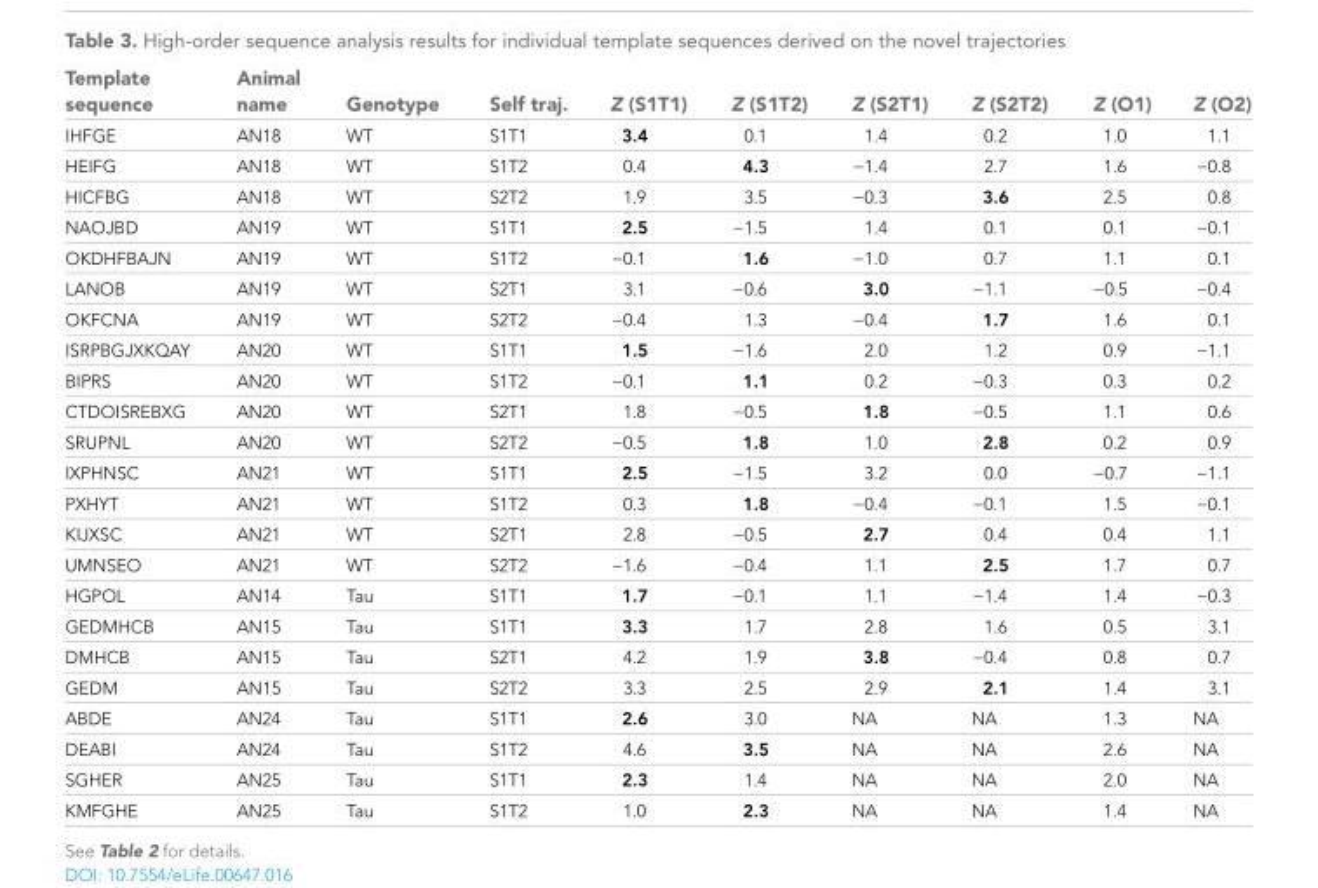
<table><thead><tr><td>Template sequence</td><td>Animal name</td><td>Genotype</td><td>Self traj.</td><td>Z (S1T1)</td><td>Z (S1T2)</td><td>Z (S2T1)</td><td>Z (S2T2)</td><td>Z (O1)</td><td>Z (O2)</td></tr></thead><tbody><tr><td>IHFGE</td><td>AN18</td><td>WT</td><td>S1T1</td><td>3.4</td><td>0.1</td><td>1.4</td><td>0.2</td><td>1.0</td><td>1.1</td></tr><tr><td>HEIFG</td><td>AN18</td><td>WT</td><td>S1T2</td><td>0.4</td><td>4.3</td><td>−1.4</td><td>2.7</td><td>1.6</td><td>−0.8</td></tr><tr><td>HICFBG</td><td>AN18</td><td>WT</td><td>S2T2</td><td>1.9</td><td>3.5</td><td>−0.3</td><td>3.6</td><td>2.5</td><td>0.8</td></tr><tr><td>NAOJBD</td><td>AN19</td><td>WT</td><td>S1T1</td><td>2.5</td><td>−1.5</td><td>1.4</td><td>0.1</td><td>0.1</td><td>−0.1</td></tr><tr><td>OKDHFBAJN</td><td>AN19</td><td>WT</td><td>S1T2</td><td>−0.1</td><td>1.6</td><td>−1.0</td><td>0.7</td><td>1.1</td><td>0.1</td></tr><tr><td>LANOB</td><td>AN19</td><td>WT</td><td>S2T1</td><td>3.1</td><td>−0.6</td><td>3.0</td><td>−1.1</td><td>−0.5</td><td>−0.4</td></tr><tr><td>OKFCNA</td><td>AN19</td><td>WT</td><td>S2T2</td><td>−0.4</td><td>1.3</td><td>−0.4</td><td>1.7</td><td>1.6</td><td>0.1</td></tr><tr><td>ISRPBGJXKQAY</td><td>AN20</td><td>WT</td><td>S1T1</td><td>1.5</td><td>−1.6</td><td>2.0</td><td>1.2</td><td>0.9</td><td>−1.1</td></tr><tr><td>BIPRS</td><td>AN20</td><td>WT</td><td>S1T2</td><td>−0.1</td><td>1.1</td><td>0.2</td><td>−0.3</td><td>0.3</td><td>0.2</td></tr><tr><td>CTDOISREBXG</td><td>AN20</td><td>WT</td><td>S2T1</td><td>1.8</td><td>−0.5</td><td>1.8</td><td>−0.5</td><td>1.1</td><td>0.6</td></tr><tr><td>SRUPNL</td><td>AN20</td><td>WT</td><td>S2T2</td><td>−0.5</td><td>1.8</td><td>1.0</td><td>2.8</td><td>0.2</td><td>0.9</td></tr><tr><td>IXPHNSC</td><td>AN21</td><td>WT</td><td>S1T1</td><td>2.5</td><td>−1.5</td><td>3.2</td><td>0.0</td><td>−0.7</td><td>−1.1</td></tr><tr><td>PXHYT</td><td>AN21</td><td>WT</td><td>S1T2</td><td>0.3</td><td>1.8</td><td>−0.4</td><td>−0.1</td><td>1.5</td><td>−0.1</td></tr><tr><td>KIJXSC</td><td>AN21</td><td>WT</td><td>S2T1</td><td>2.8</td><td>−0.5</td><td>2.7</td><td>0.4</td><td>0.4</td><td>1.1</td></tr><tr><td>UMNSEO</td><td>AN21</td><td>WT</td><td>S2T2</td><td>−1.6</td><td>−0.4</td><td>1.1</td><td>2.5</td><td>1.7</td><td>0.7</td></tr><tr><td>HGPOL</td><td>AN14</td><td>Tau</td><td>S1T1</td><td>1.7</td><td>−0.1</td><td>1.1</td><td>−1.4</td><td>1.4</td><td>−0.3</td></tr><tr><td>GEDMHCB</td><td>AN15</td><td>Tau</td><td>S1T1</td><td>3.3</td><td>1.7</td><td>2.8</td><td>1.6</td><td>0.5</td><td>3.1</td></tr><tr><td>DMHCB</td><td>AN15</td><td>Tau</td><td>S2T1</td><td>4.2</td><td>1.9</td><td>3.8</td><td>−0.4</td><td>0.8</td><td>0.7</td></tr><tr><td>GEDM</td><td>AN15</td><td>Tau</td><td>S2T2</td><td>3.3</td><td>2.5</td><td>2.9</td><td>2.1</td><td>1.4</td><td>3.1</td></tr><tr><td>ABDE</td><td>AN24</td><td>Tau</td><td>S1T1</td><td>2.6</td><td>3.0</td><td>NA</td><td>NA</td><td>1.3</td><td>NA</td></tr><tr><td>DEABI</td><td>AN24</td><td>Tau</td><td>S1T2</td><td>4.6</td><td>3.5</td><td>NA</td><td>NA</td><td>2.6</td><td>NA</td></tr><tr><td>SGHER</td><td>AN25</td><td>Tau</td><td>S1T1</td><td>2.3</td><td>1.4</td><td>NA</td><td>NA</td><td>2.0</td><td>NA</td></tr><tr><td>KMFGHE</td><td>AN25</td><td>Tau</td><td>S1T2</td><td>1.0</td><td>2.3</td><td>NA</td><td>NA</td><td>1.4</td><td>NA</td></tr></tbody></table>